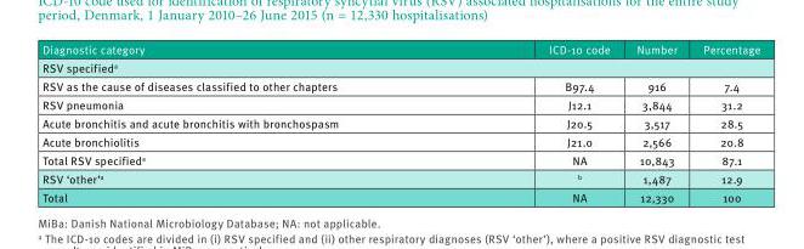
<table><thead><tr><td>Diagnostic category</td><td>ICD-10 code</td><td>Number</td><td>Percentage</td></tr></thead><tbody><tr><td colspan="4">RSV specified<sup>a</sup></td></tr><tr><td>RSV as the cause of diseases classified to other chapters</td><td>B97.4</td><td>916</td><td>7.4</td></tr><tr><td>RSV pneumonia</td><td>J12.1</td><td>3,844</td><td>31.2</td></tr><tr><td>Acute bronchitis and acute bronchitis with bronchospasm</td><td>J20.5</td><td>3,517</td><td>28.5</td></tr><tr><td>Acute bronchiolitis</td><td>J21.0</td><td>2,566</td><td>20.8</td></tr><tr><td>Total RSV specified<sup>a</sup></td><td>NA</td><td>10,843</td><td>87.1</td></tr><tr><td>RSV ‘other’<sup>a</sup></td><td><sup>b</sup></td><td>1,487</td><td>12.9</td></tr><tr><td>Total</td><td>NA</td><td>12,330</td><td>100</td></tr></tbody></table>